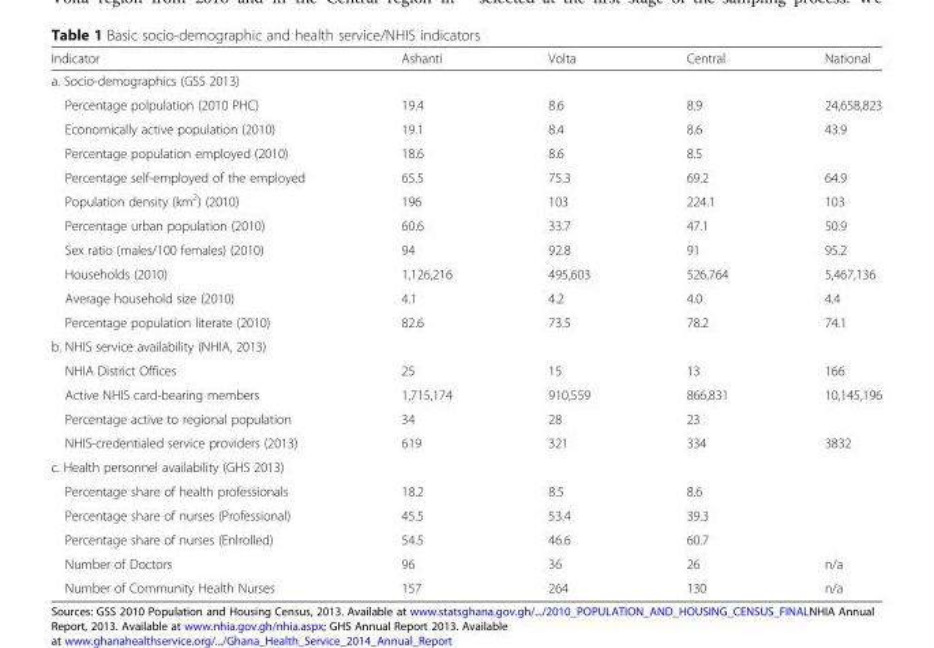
<table><thead><tr><td>Indicator</td><td>Ashanti</td><td>Volta</td><td>Central</td><td>National</td></tr></thead><tbody><tr><td colspan="5">a. Socio-demographics (GSS 2013)</td></tr><tr><td>Percentage polpulation (2010 PHC)</td><td>19.4</td><td>8.6</td><td>8.9</td><td>24,658,823</td></tr><tr><td>Economically active population (2010)</td><td>19.1</td><td>8.4</td><td>8.6</td><td>43.9</td></tr><tr><td>Percentage population employed (2010)</td><td>18.6</td><td>8.6</td><td>8.5</td><td></td></tr><tr><td>Percentage self-employed of the employed</td><td>65.5</td><td>75.3</td><td>69.2</td><td>64.9</td></tr><tr><td>Population density (km<sup>2</sup>) (2010)</td><td>196</td><td>103</td><td>224.1</td><td>103</td></tr><tr><td>Percentage urban population (2010)</td><td>60.6</td><td>33.7</td><td>47.1</td><td>50.9</td></tr><tr><td>Sex ratio (males/100 females) (2010)</td><td>94</td><td>92.8</td><td>91</td><td>95.2</td></tr><tr><td>Households (2010)</td><td>1,126,216</td><td>495,603</td><td>526,764</td><td>5,467,136</td></tr><tr><td>Average household size (2010)</td><td>4.1</td><td>4.2</td><td>4.0</td><td>4.4</td></tr><tr><td>Percentage population literate (2010)</td><td>82.6</td><td>73.5</td><td>78.2</td><td>74.1</td></tr><tr><td colspan="5">b. NHIS service availability (NHIA, 2013)</td></tr><tr><td>NHIA District Offices</td><td>25</td><td>15</td><td>13</td><td>166</td></tr><tr><td>Active NHIS card-bearing members</td><td>1,715,174</td><td>910,559</td><td>866,831</td><td>10,145,196</td></tr><tr><td>Percentage active to regional population</td><td>34</td><td>28</td><td>23</td><td></td></tr><tr><td>NHIS-credentialed service providers (2013)</td><td>619</td><td>321</td><td>334</td><td>3832</td></tr><tr><td colspan="5">c. Health personnel availability (GHS 2013)</td></tr><tr><td>Percentage share of health professionals</td><td>18.2</td><td>8.5</td><td>8.6</td><td></td></tr><tr><td>Percentage share of nurses (Professional)</td><td>45.5</td><td>53.4</td><td>39.3</td><td></td></tr><tr><td>Percentage share of nurses (Enlrolled)</td><td>54.5</td><td>46.6</td><td>60.7</td><td></td></tr><tr><td>Number of Doctors</td><td>96</td><td>36</td><td>26</td><td>n/a</td></tr><tr><td>Number of Community Health Nurses</td><td>157</td><td>264</td><td>130</td><td>n/a</td></tr></tbody></table>